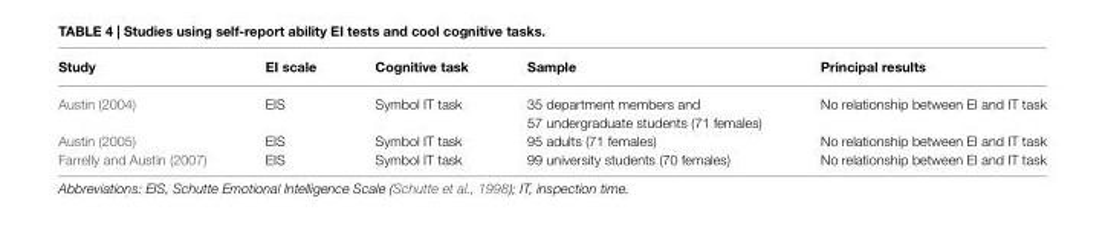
<table><thead><tr><td>Study</td><td>EI scale</td><td>Cognitive task</td><td>Sample</td><td>Principal results</td></tr></thead><tbody><tr><td rowspan="2">Austin (2004)</td><td>EIS</td><td>Symbol IT task</td><td>35 department members and</td><td>No relationship between EI and IT task</td></tr><tr><td></td><td></td><td>57 undergraduate students (71 females)</td><td></td></tr><tr><td>Austin (2005)</td><td>EIS</td><td>Symbol IT task</td><td>95 adults (71 females)</td><td>No relationship between EI and IT task</td></tr><tr><td>Farrelly and Austin (2007)</td><td>EIS</td><td>Symbol IT task</td><td>99 university students (70 females)</td><td>No relationship between EI and IT task</td></tr></tbody></table>